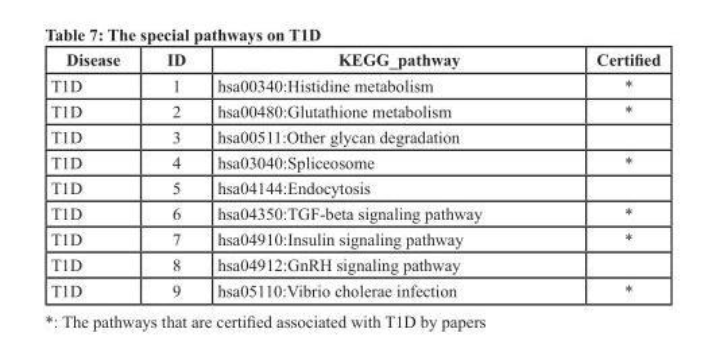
<table><thead><tr><td>Disease</td><td>ID</td><td>KEGG_pathway</td><td>Certified</td></tr></thead><tbody><tr><td>T1D</td><td>1</td><td>hsa00340:Histidine metabolism</td><td>*</td></tr><tr><td>T1D</td><td>2</td><td>hsa00480:Glutathione metabolism</td><td>*</td></tr><tr><td>T1D</td><td>3</td><td>hsa00511:Other glycan degradation</td><td></td></tr><tr><td>T1D</td><td>4</td><td>hsa03040:Spliceosome</td><td>*</td></tr><tr><td>T1D</td><td>5</td><td>hsa04144:Endocytosis</td><td></td></tr><tr><td>T1D</td><td>6</td><td>hsa04350:TGF-beta signaling pathway</td><td>*</td></tr><tr><td>T1D</td><td>7</td><td>hsa04910:Insulin signaling pathway</td><td>*</td></tr><tr><td>T1D</td><td>8</td><td>hsa04912:GnRH signaling pathway</td><td></td></tr><tr><td>T1D</td><td>9</td><td>hsa05110:Vibrio cholerae infection</td><td>*</td></tr></tbody></table>